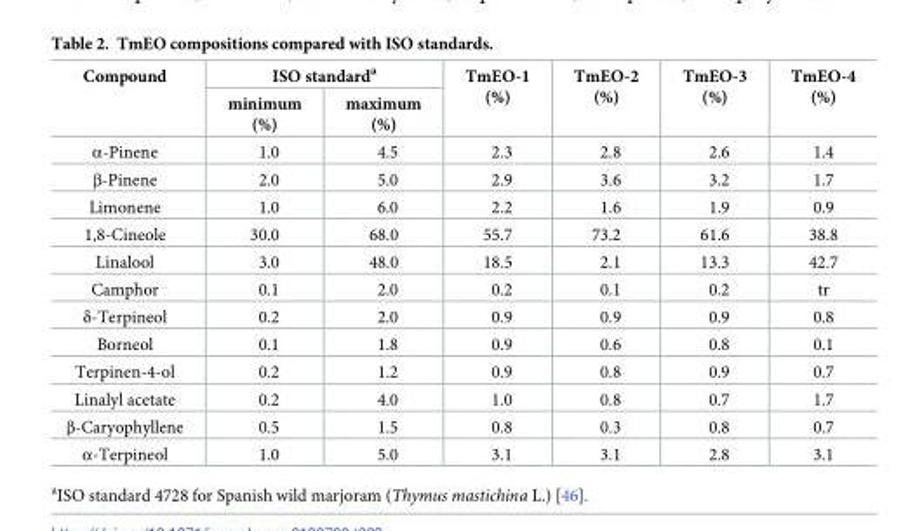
<table><thead><tr><td rowspan="2">Compound</td><td colspan="2">ISO standard<sup>a</sup></td><td rowspan="2">TmEO-1 (%)</td><td rowspan="2">TmEO-2 (%)</td><td rowspan="2">TmEO-3 (%)</td><td rowspan="2">TmEO-4 (%)</td></tr><tr><td>minimum (%)</td><td>maximum (%)</td></tr></thead><tbody><tr><td>α-Pinene</td><td>1.0</td><td>4.5</td><td>2.3</td><td>2.8</td><td>2.6</td><td>1.4</td></tr><tr><td>β-Pinene</td><td>2.0</td><td>5.0</td><td>2.9</td><td>3.6</td><td>3.2</td><td>1.7</td></tr><tr><td>Limonene</td><td>1.0</td><td>6.0</td><td>2.2</td><td>1.6</td><td>1.9</td><td>0.9</td></tr><tr><td>1,8-Cineole</td><td>30.0</td><td>68.0</td><td>55.7</td><td>73.2</td><td>61.6</td><td>38.8</td></tr><tr><td>Linalool</td><td>3.0</td><td>48.0</td><td>18.5</td><td>2.1</td><td>13.3</td><td>42.7</td></tr><tr><td>Camphor</td><td>0.1</td><td>2.0</td><td>0.2</td><td>0.1</td><td>0.2</td><td>tr</td></tr><tr><td>δ-Terpineol</td><td>0.2</td><td>2.0</td><td>0.9</td><td>0.9</td><td>0.9</td><td>0.8</td></tr><tr><td>Borneol</td><td>0.1</td><td>1.8</td><td>0.9</td><td>0.6</td><td>0.8</td><td>0.1</td></tr><tr><td>Terpinen-4-ol</td><td>0.2</td><td>1.2</td><td>0.9</td><td>0.8</td><td>0.9</td><td>0.7</td></tr><tr><td>Linalyl acetate</td><td>0.2</td><td>4.0</td><td>1.0</td><td>0.8</td><td>0.7</td><td>1.7</td></tr><tr><td>β-Caryophyllene</td><td>0.5</td><td>1.5</td><td>0.8</td><td>0.3</td><td>0.8</td><td>0.7</td></tr><tr><td>α-Terpineol</td><td>1.0</td><td>5.0</td><td>3.1</td><td>3.1</td><td>2.8</td><td>3.1</td></tr></tbody></table>